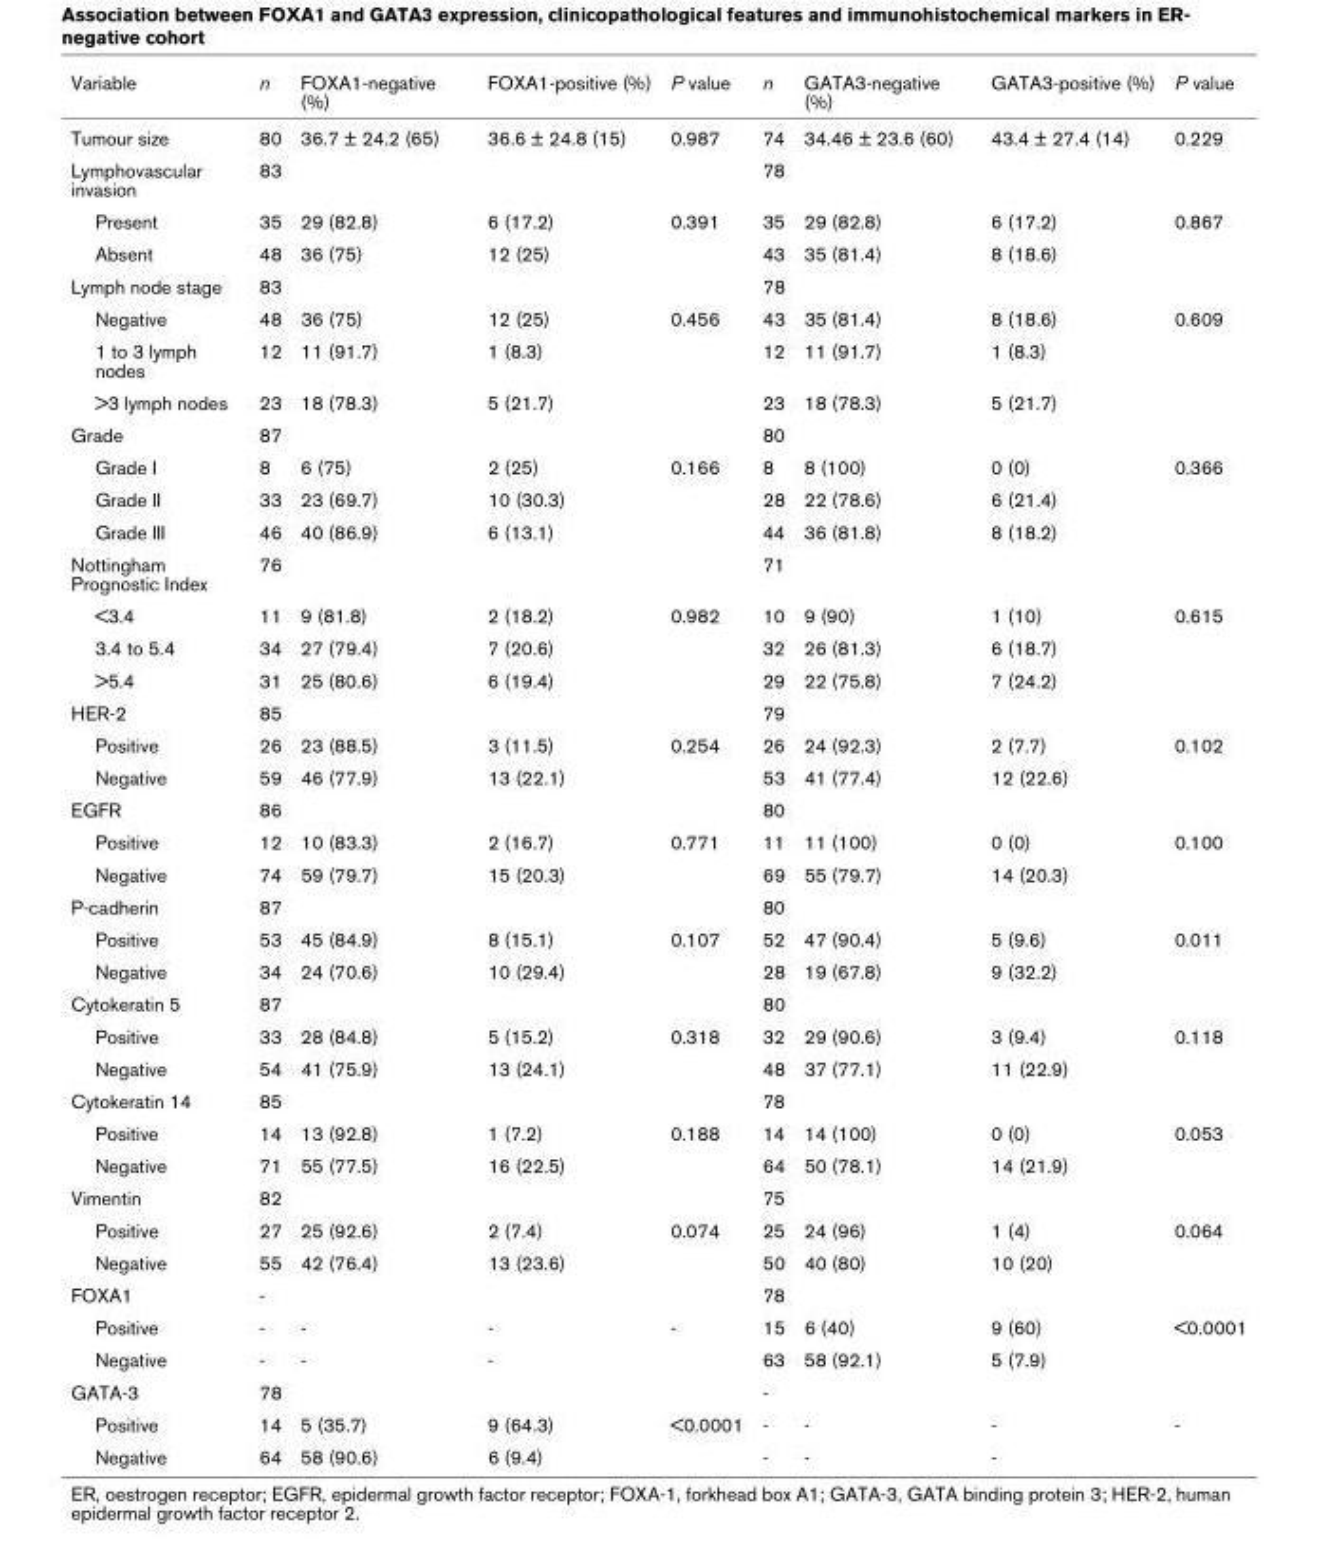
<table><thead><tr><td>Variable</td><td>n</td><td>FOXA1-negative (%)</td><td>FOXA1-positive (%)</td><td>P value</td><td>n</td><td>GATA3-negative (%)</td><td>GATA3-positive (%)</td><td>P value</td></tr></thead><tbody><tr><td>Tumour size</td><td>80</td><td>36.7 ± 24.2 (65)</td><td>36.6 ± 24.8 (15)</td><td>0.987</td><td>74</td><td>34.46 ± 23.6 (60)</td><td>43.4 ± 27.4 (14)</td><td>0.229</td></tr><tr><td>Lymphovascular invasion</td><td>83</td><td></td><td></td><td></td><td>78</td><td></td><td></td><td></td></tr><tr><td>Present</td><td>35</td><td>29 (82.8)</td><td>6 (17.2)</td><td>0.391</td><td>35</td><td>29 (82.8)</td><td>6 (17.2)</td><td>0.867</td></tr><tr><td>Absent</td><td>48</td><td>36 (75)</td><td>12 (25)</td><td></td><td>43</td><td>35 (81.4)</td><td>8 (18.6)</td><td></td></tr><tr><td>Lymph node stage</td><td>83</td><td></td><td></td><td></td><td>78</td><td></td><td></td><td></td></tr><tr><td>Negative</td><td>48</td><td>36 (75)</td><td>12 (25)</td><td>0.456</td><td>43</td><td>35 (81.4)</td><td>8 (18.6)</td><td>0.609</td></tr><tr><td>1 to 3 lymph nodes</td><td>12</td><td>11 (91.7)</td><td>1 (8.3)</td><td></td><td>12</td><td>11 (91.7)</td><td>1 (8.3)</td><td></td></tr><tr><td>&gt;3 lymph nodes</td><td>23</td><td>18 (78.3)</td><td>5 (21.7)</td><td></td><td>23</td><td>18 (78.3)</td><td>5 (21.7)</td><td></td></tr><tr><td>Grade</td><td>87</td><td></td><td></td><td></td><td>80</td><td></td><td></td><td></td></tr><tr><td>Grade I</td><td>8</td><td>6 (75)</td><td>2 (25)</td><td>0.166</td><td>8</td><td>8 (100)</td><td>0 (0)</td><td>0.366</td></tr><tr><td>Grade II</td><td>33</td><td>23 (69.7)</td><td>10 (30.3)</td><td></td><td>28</td><td>22 (78.6)</td><td>6 (21.4)</td><td></td></tr><tr><td>Grade III</td><td>46</td><td>40 (86.9)</td><td>6 (13.1)</td><td></td><td>44</td><td>36 (81.8)</td><td>8 (18.2)</td><td></td></tr><tr><td>Nottingham Prognostic Index</td><td>76</td><td></td><td></td><td></td><td>71</td><td></td><td></td><td></td></tr><tr><td>&lt;3.4</td><td>11</td><td>9 (81.8)</td><td>2 (18.2)</td><td>0.982</td><td>10</td><td>9 (90)</td><td>1 (10)</td><td>0.615</td></tr><tr><td>3.4 to 5.4</td><td>34</td><td>27 (79.4)</td><td>7 (20.6)</td><td></td><td>32</td><td>26 (81.3)</td><td>6 (18.7)</td><td></td></tr><tr><td>&gt;5.4</td><td>31</td><td>25 (80.6)</td><td>6 (19.4)</td><td></td><td>29</td><td>22 (75.8)</td><td>7 (24.2)</td><td></td></tr><tr><td>HER-2</td><td>85</td><td></td><td></td><td></td><td>79</td><td></td><td></td><td></td></tr><tr><td>Positive</td><td>26</td><td>23 (88.5)</td><td>3 (11.5)</td><td>0.254</td><td>26</td><td>24 (92.3)</td><td>2 (7.7)</td><td>0.102</td></tr><tr><td>Negative</td><td>59</td><td>46 (77.9)</td><td>13 (22.1)</td><td></td><td>53</td><td>41 (77.4)</td><td>12 (22.6)</td><td></td></tr><tr><td>EGFR</td><td>86</td><td></td><td></td><td></td><td>80</td><td></td><td></td><td></td></tr><tr><td>Positive</td><td>12</td><td>10 (83.3)</td><td>2 (16.7)</td><td>0.771</td><td>11</td><td>11 (100)</td><td>0 (0)</td><td>0.100</td></tr><tr><td>Negative</td><td>74</td><td>59 (79.7)</td><td>15 (20.3)</td><td></td><td>69</td><td>55 (79.7)</td><td>14 (20.3)</td><td></td></tr><tr><td>P-cadherin</td><td>87</td><td></td><td></td><td></td><td>80</td><td></td><td></td><td></td></tr><tr><td>Positive</td><td>53</td><td>45 (84.9)</td><td>8 (15.1)</td><td>0.107</td><td>52</td><td>47 (90.4)</td><td>5 (9.6)</td><td>0.011</td></tr><tr><td>Negative</td><td>34</td><td>24 (70.6)</td><td>10 (29.4)</td><td></td><td>28</td><td>19 (67.8)</td><td>9 (32.2)</td><td></td></tr><tr><td>Cytokeratin 5</td><td>87</td><td></td><td></td><td></td><td>80</td><td></td><td></td><td></td></tr><tr><td>Positive</td><td>33</td><td>28 (84.8)</td><td>5 (15.2)</td><td>0.318</td><td>32</td><td>29 (90.6)</td><td>3 (9.4)</td><td>0.118</td></tr><tr><td>Negative</td><td>54</td><td>41 (75.9)</td><td>13 (24.1)</td><td></td><td>48</td><td>37 (77.1)</td><td>11 (22.9)</td><td></td></tr><tr><td>Cytokeratin 14</td><td>85</td><td></td><td></td><td></td><td>78</td><td></td><td></td><td></td></tr><tr><td>Positive</td><td>14</td><td>13 (92.8)</td><td>1 (7.2)</td><td>0.188</td><td>14</td><td>14 (100)</td><td>0 (0)</td><td>0.053</td></tr><tr><td>Negative</td><td>71</td><td>55 (77.5)</td><td>16 (22.5)</td><td></td><td>64</td><td>50 (78.1)</td><td>14 (21.9)</td><td></td></tr><tr><td>Vimentin</td><td>82</td><td></td><td></td><td></td><td>75</td><td></td><td></td><td></td></tr><tr><td>Positive</td><td>27</td><td>25 (92.6)</td><td>2 (7.4)</td><td>0.074</td><td>25</td><td>24 (96)</td><td>1 (4)</td><td>0.064</td></tr><tr><td>Negative</td><td>55</td><td>42 (76.4)</td><td>13 (23.6)</td><td></td><td>50</td><td>40 (80)</td><td>10 (20)</td><td></td></tr><tr><td>FOXA1</td><td>-</td><td></td><td></td><td></td><td>78</td><td></td><td></td><td></td></tr><tr><td>Positive</td><td>-</td><td>-</td><td>-</td><td>-</td><td>15</td><td>6 (40)</td><td>9 (60)</td><td>&lt;0.0001</td></tr><tr><td>Negative</td><td>-</td><td>-</td><td>-</td><td></td><td>63</td><td>58 (92.1)</td><td>5 (7.9)</td><td></td></tr><tr><td>GATA-3</td><td>78</td><td></td><td></td><td></td><td>-</td><td></td><td></td><td></td></tr><tr><td>Positive</td><td>14</td><td>5 (35.7)</td><td>9 (64.3)</td><td>&lt;0.0001</td><td>-</td><td>-</td><td>-</td><td>-</td></tr><tr><td>Negative</td><td>64</td><td>58 (90.6)</td><td>6 (9.4)</td><td></td><td>-</td><td>-</td><td>-</td><td></td></tr></tbody></table>